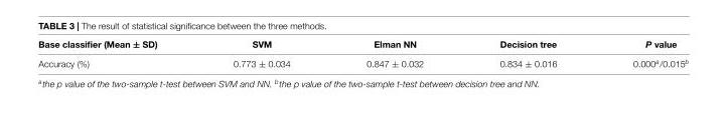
<table><thead><tr><td>Base classifier (Mean ± SD)</td><td>SVM</td><td>Elman NN</td><td>Decision tree</td><td>P value</td></tr></thead><tbody><tr><td>Accuracy (%)</td><td>0.773 ± 0.034</td><td>0.847 ± 0.032</td><td>0.834 ± 0.016</td><td>0.000<sup>a</sup>/0.015<sup>b</sup></td></tr></tbody></table>